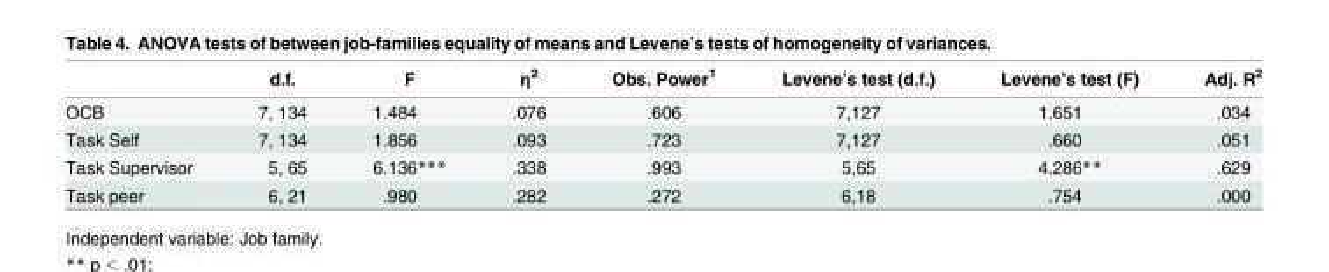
<table><thead><tr><td></td><td>d.f.</td><td>F</td><td>η<sup>2</sup></td><td>Obs. Power<sup>1</sup></td><td>Levene’s test (d.f.)</td><td>Levene’s test (F)</td><td>Adj. R<sup>2</sup></td></tr></thead><tbody><tr><td>OCB</td><td>7, 134</td><td>1.484</td><td>.076</td><td>.606</td><td>7,127</td><td>1.651</td><td>.034</td></tr><tr><td>Task Self</td><td>7, 134</td><td>1.856</td><td>.093</td><td>.723</td><td>7,127</td><td>.660</td><td>.051</td></tr><tr><td>Task Supervisor</td><td>5, 65</td><td>6.136***</td><td>.338</td><td>.993</td><td>5,65</td><td>4.286**</td><td>.629</td></tr><tr><td>Task peer</td><td>6, 21</td><td>.980</td><td>.282</td><td>.272</td><td>6,18</td><td>.754</td><td>.000</td></tr></tbody></table>